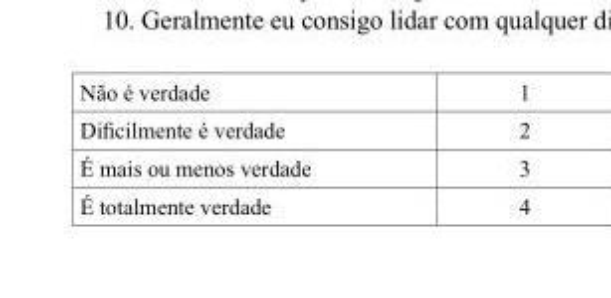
<table><tbody><tr><td>Não é verdade</td><td>1</td></tr><tr><td>Dificilmente é verdade</td><td>2</td></tr><tr><td>É mais ou menos verdade</td><td>3</td></tr><tr><td>É totalmente verdade</td><td>4</td></tr></tbody></table>